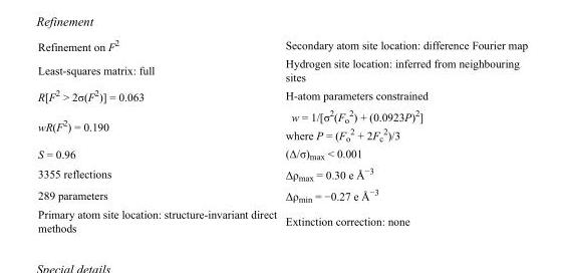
<table><tbody><tr><td>Refinement on F<sup>2</sup></td><td>Secondary atom site location: difference Fourier map</td></tr><tr><td>Least-squares matrix: full</td><td>Hydrogen site location: inferred from neighbouring sites</td></tr><tr><td>R[F<sup>2</sup> &gt; 2σ(F<sup>2</sup>)] = 0.063</td><td>H-atom parameters constrained</td></tr><tr><td>wR(F<sup>2</sup>) = 0.190</td><td>w = 1/[σ<sup>2</sup>(F<sub>o</sub> <sup>2</sup>) + (0.0923P)<sup>2</sup>] where P = (F<sub>o</sub> <sup>2</sup> + 2F<sub>c</sub> <sup>2</sup>)/3</td></tr><tr><td>S = 0.96</td><td>(Δ/σ)<sub>max</sub> &lt; 0.001</td></tr><tr><td>3355 reflections</td><td>Δρ<sub>max</sub> = 0.30 e Å<sup>−3</sup></td></tr><tr><td>289 parameters</td><td>Δρ<sub>min</sub> = −0.27 e Å<sup>−3</sup></td></tr><tr><td>Primary atom site location: structure-invariant direct methods</td><td>Extinction correction: none</td></tr></tbody></table>